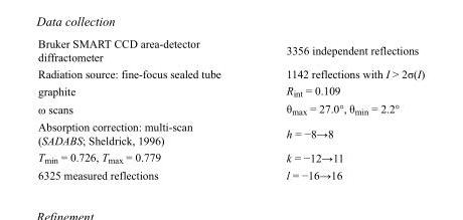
<table><tbody><tr><td>Bruker SMART CCD area-detector diffractometer</td><td>3356 independent reflections</td></tr><tr><td>Radiation source: fine-focus sealed tube</td><td>1142 reflections with I &gt; 2σ(I)</td></tr><tr><td>graphite</td><td>R<sub>int</sub> = 0.109</td></tr><tr><td>ω scans</td><td>θ<sub>max</sub> = 27.0°, θ<sub>min</sub> = 2.2°</td></tr><tr><td>Absorption correction: multi-scan (SADABS; Sheldrick, 1996)</td><td>h = −8→8</td></tr><tr><td>T<sub>min</sub> = 0.726, T<sub>max</sub> = 0.779</td><td>k = −12→11</td></tr><tr><td>6325 measured reflections</td><td>l = −16→16</td></tr></tbody></table>